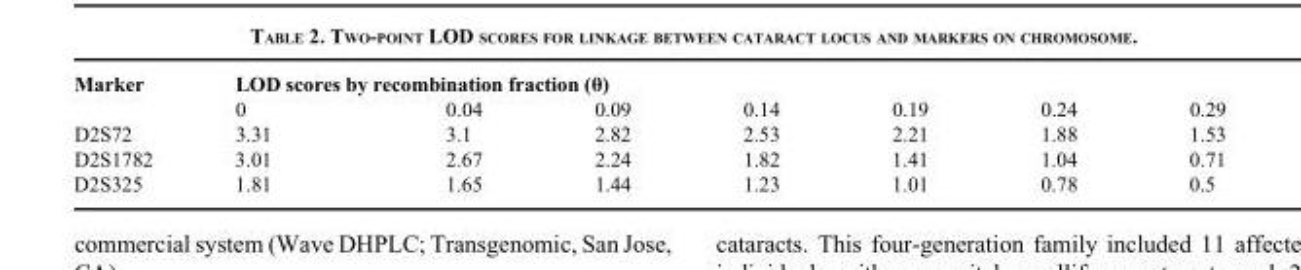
<table><thead><tr><td rowspan="2">Marker</td><td colspan="7">LOD scores by recombination fraction (θ)</td></tr><tr><td>0</td><td>0.04</td><td>0.09</td><td>0.14</td><td>0.19</td><td>0.24</td><td>0.29</td></tr></thead><tbody><tr><td>D2S72</td><td>3.31</td><td>3.1</td><td>2.82</td><td>2.53</td><td>2.21</td><td>1.88</td><td>1.53</td></tr><tr><td>D2S1782</td><td>3.01</td><td>2.67</td><td>2.24</td><td>1.82</td><td>1.41</td><td>1.04</td><td>0.71</td></tr><tr><td>D2S325</td><td>1.81</td><td>1.65</td><td>1.44</td><td>1.23</td><td>1.01</td><td>0.78</td><td>0.5</td></tr></tbody></table>